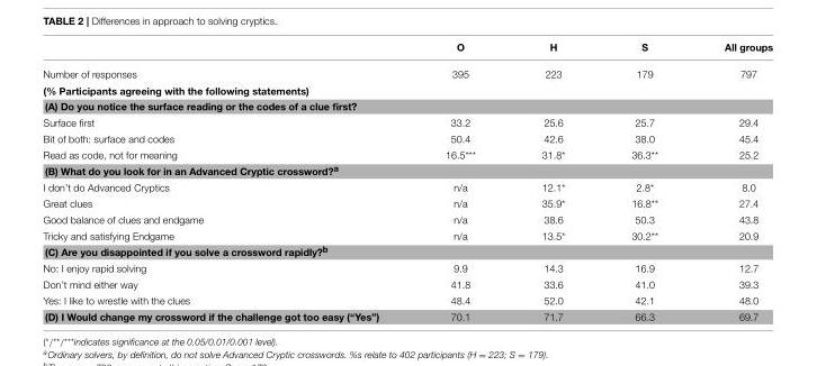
<table><thead><tr><td></td><td>O</td><td>H</td><td>S</td><td>All groups</td></tr></thead><tbody><tr><td>Number of responses</td><td>395</td><td>223</td><td>179</td><td>797</td></tr><tr><td colspan="5">(% Participants agreeing with the following statements)</td></tr><tr><td colspan="5">(A) Do you notice the surface reading or the codes of a clue first?</td></tr><tr><td>Surface first</td><td>33.2</td><td>25.6</td><td>25.7</td><td>29.4</td></tr><tr><td>Bit of both: surface and codes</td><td>50.4</td><td>42.6</td><td>38.0</td><td>45.4</td></tr><tr><td>Read as code, not for meaning</td><td>16.5***</td><td>31.8*</td><td>36.3**</td><td>25.2</td></tr><tr><td colspan="5">(B) What do you look for in an Advanced Cryptic crossword?<sup>a</sup></td></tr><tr><td>I don’t do Advanced Cryptics</td><td>n/a</td><td>12.1*</td><td>2.8*</td><td>8.0</td></tr><tr><td>Great clues</td><td>n/a</td><td>35.9*</td><td>16.8**</td><td>27.4</td></tr><tr><td>Good balance of clues and endgame</td><td>n/a</td><td>38.6</td><td>50.3</td><td>43.8</td></tr><tr><td>Tricky and satisfying Endgame</td><td>n/a</td><td>13.5*</td><td>30.2**</td><td>20.9</td></tr><tr><td colspan="5">(C) Are you disappointed if you solve a crossword rapidly?<sup>b</sup></td></tr><tr><td>No: I enjoy rapid solving</td><td>9.9</td><td>14.3</td><td>16.9</td><td>12.7</td></tr><tr><td>Don’t mind either way</td><td>41.8</td><td>33.6</td><td>41.0</td><td>39.3</td></tr><tr><td>Yes: I like to wrestle with the clues</td><td>48.4</td><td>52.0</td><td>42.1</td><td>48.0</td></tr><tr><td>(D) I Would change my crossword if the challenge got too easy (“Yes”)</td><td>70.1</td><td>71.7</td><td>66.3</td><td>69.7</td></tr></tbody></table>